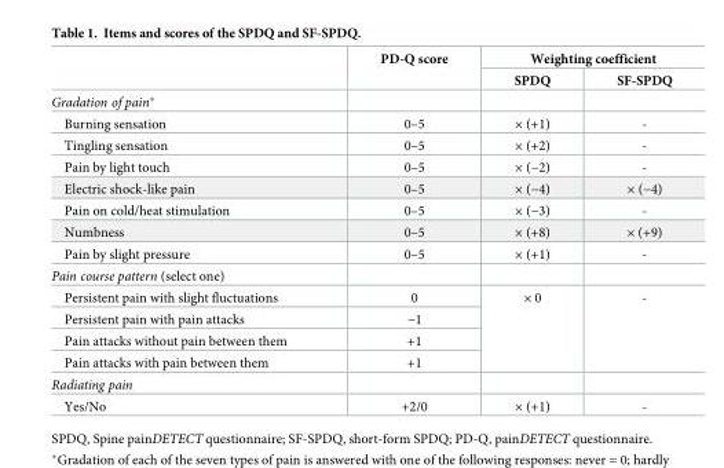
<table><thead><tr><td rowspan="2"></td><td rowspan="2">PD-Q score</td><td colspan="2">Weighting coefficient</td></tr><tr><td>SPDQ</td><td>SF-SPDQ</td></tr></thead><tbody><tr><td colspan="4">Gradation of pain*</td></tr><tr><td>Burning sensation</td><td>0–5</td><td>× (+1)</td><td>-</td></tr><tr><td>Tingling sensation</td><td>0–5</td><td>× (+2)</td><td>-</td></tr><tr><td>Pain by light touch</td><td>0–5</td><td>× (−2)</td><td>-</td></tr><tr><td>Electric shock-like pain</td><td>0–5</td><td>× (−4)</td><td>× (−4)</td></tr><tr><td>Pain on cold/heat stimulation</td><td>0–5</td><td>× (−3)</td><td>-</td></tr><tr><td>Numbness</td><td>0–5</td><td>× (+8)</td><td>× (+9)</td></tr><tr><td>Pain by slight pressure</td><td>0–5</td><td>× (+1)</td><td>-</td></tr><tr><td colspan="4">Pain course pattern (select one)</td></tr><tr><td>Persistent pain with slight fluctuations</td><td>0</td><td rowspan="4">× 0</td><td rowspan="4">-</td></tr><tr><td>Persistent pain with pain attacks</td><td>−1</td></tr><tr><td>Pain attacks without pain between them</td><td>+1</td></tr><tr><td>Pain attacks with pain between them</td><td>+1</td></tr><tr><td colspan="4">Radiating pain</td></tr><tr><td>Yes/No</td><td>+2/0</td><td>× (+1)</td><td>-</td></tr></tbody></table>